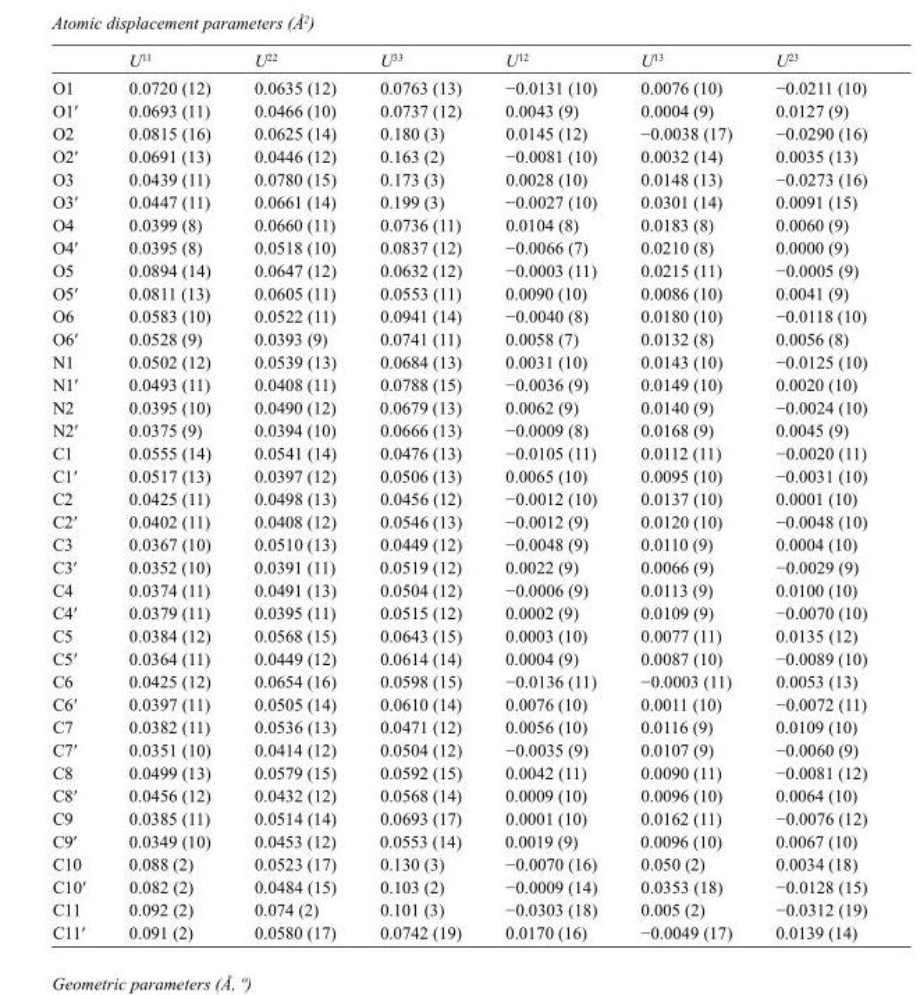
<table><thead><tr><td></td><td>U<sup>11</sup></td><td>U<sup>22</sup></td><td>U<sup>33</sup></td><td>U<sup>12</sup></td><td>U<sup>13</sup></td><td>U<sup>23</sup></td></tr></thead><tbody><tr><td>O1</td><td>0.0720 (12)</td><td>0.0635 (12)</td><td>0.0763 (13)</td><td>−0.0131 (10)</td><td>0.0076 (10)</td><td>−0.0211 (10)</td></tr><tr><td>O1′</td><td>0.0693 (11)</td><td>0.0466 (10)</td><td>0.0737 (12)</td><td>0.0043 (9)</td><td>0.0004 (9)</td><td>0.0127 (9)</td></tr><tr><td>O2</td><td>0.0815 (16)</td><td>0.0625 (14)</td><td>0.180 (3)</td><td>0.0145 (12)</td><td>−0.0038 (17)</td><td>−0.0290 (16)</td></tr><tr><td>O2′</td><td>0.0691 (13)</td><td>0.0446 (12)</td><td>0.163 (2)</td><td>−0.0081 (10)</td><td>0.0032 (14)</td><td>0.0035 (13)</td></tr><tr><td>O3</td><td>0.0439 (11)</td><td>0.0780 (15)</td><td>0.173 (3)</td><td>0.0028 (10)</td><td>0.0148 (13)</td><td>−0.0273 (16)</td></tr><tr><td>O3′</td><td>0.0447 (11)</td><td>0.0661 (14)</td><td>0.199 (3)</td><td>−0.0027 (10)</td><td>0.0301 (14)</td><td>0.0091 (15)</td></tr><tr><td>O4</td><td>0.0399 (8)</td><td>0.0660 (11)</td><td>0.0736 (11)</td><td>0.0104 (8)</td><td>0.0183 (8)</td><td>0.0060 (9)</td></tr><tr><td>O4′</td><td>0.0395 (8)</td><td>0.0518 (10)</td><td>0.0837 (12)</td><td>−0.0066 (7)</td><td>0.0210 (8)</td><td>0.0000 (9)</td></tr><tr><td>O5</td><td>0.0894 (14)</td><td>0.0647 (12)</td><td>0.0632 (12)</td><td>−0.0003 (11)</td><td>0.0215 (11)</td><td>−0.0005 (9)</td></tr><tr><td>O5′</td><td>0.0811 (13)</td><td>0.0605 (11)</td><td>0.0553 (11)</td><td>0.0090 (10)</td><td>0.0086 (10)</td><td>0.0041 (9)</td></tr><tr><td>O6</td><td>0.0583 (10)</td><td>0.0522 (11)</td><td>0.0941 (14)</td><td>−0.0040 (8)</td><td>0.0180 (10)</td><td>−0.0118 (10)</td></tr><tr><td>O6′</td><td>0.0528 (9)</td><td>0.0393 (9)</td><td>0.0741 (11)</td><td>0.0058 (7)</td><td>0.0132 (8)</td><td>0.0056 (8)</td></tr><tr><td>N1</td><td>0.0502 (12)</td><td>0.0539 (13)</td><td>0.0684 (13)</td><td>0.0031 (10)</td><td>0.0143 (10)</td><td>−0.0125 (10)</td></tr><tr><td>N1′</td><td>0.0493 (11)</td><td>0.0408 (11)</td><td>0.0788 (15)</td><td>−0.0036 (9)</td><td>0.0149 (10)</td><td>0.0020 (10)</td></tr><tr><td>N2</td><td>0.0395 (10)</td><td>0.0490 (12)</td><td>0.0679 (13)</td><td>0.0062 (9)</td><td>0.0140 (9)</td><td>−0.0024 (10)</td></tr><tr><td>N2′</td><td>0.0375 (9)</td><td>0.0394 (10)</td><td>0.0666 (13)</td><td>−0.0009 (8)</td><td>0.0168 (9)</td><td>0.0045 (9)</td></tr><tr><td>C1</td><td>0.0555 (14)</td><td>0.0541 (14)</td><td>0.0476 (13)</td><td>−0.0105 (11)</td><td>0.0112 (11)</td><td>−0.0020 (11)</td></tr><tr><td>C1′</td><td>0.0517 (13)</td><td>0.0397 (12)</td><td>0.0506 (13)</td><td>0.0065 (10)</td><td>0.0095 (10)</td><td>−0.0031 (10)</td></tr><tr><td>C2</td><td>0.0425 (11)</td><td>0.0498 (13)</td><td>0.0456 (12)</td><td>−0.0012 (10)</td><td>0.0137 (10)</td><td>0.0001 (10)</td></tr><tr><td>C2′</td><td>0.0402 (11)</td><td>0.0408 (12)</td><td>0.0546 (13)</td><td>−0.0012 (9)</td><td>0.0120 (10)</td><td>−0.0048 (10)</td></tr><tr><td>C3</td><td>0.0367 (10)</td><td>0.0510 (13)</td><td>0.0449 (12)</td><td>−0.0048 (9)</td><td>0.0110 (9)</td><td>0.0004 (10)</td></tr><tr><td>C3′</td><td>0.0352 (10)</td><td>0.0391 (11)</td><td>0.0519 (12)</td><td>0.0022 (9)</td><td>0.0066 (9)</td><td>−0.0029 (9)</td></tr><tr><td>C4</td><td>0.0374 (11)</td><td>0.0491 (13)</td><td>0.0504 (12)</td><td>−0.0006 (9)</td><td>0.0113 (9)</td><td>0.0100 (10)</td></tr><tr><td>C4′</td><td>0.0379 (11)</td><td>0.0395 (11)</td><td>0.0515 (12)</td><td>0.0002 (9)</td><td>0.0109 (9)</td><td>−0.0070 (10)</td></tr><tr><td>C5</td><td>0.0384 (12)</td><td>0.0568 (15)</td><td>0.0643 (15)</td><td>0.0003 (10)</td><td>0.0077 (11)</td><td>0.0135 (12)</td></tr><tr><td>C5′</td><td>0.0364 (11)</td><td>0.0449 (12)</td><td>0.0614 (14)</td><td>0.0004 (9)</td><td>0.0087 (10)</td><td>−0.0089 (10)</td></tr><tr><td>C6</td><td>0.0425 (12)</td><td>0.0654 (16)</td><td>0.0598 (15)</td><td>−0.0136 (11)</td><td>−0.0003 (11)</td><td>0.0053 (13)</td></tr><tr><td>C6′</td><td>0.0397 (11)</td><td>0.0505 (14)</td><td>0.0610 (14)</td><td>0.0076 (10)</td><td>0.0011 (10)</td><td>−0.0072 (11)</td></tr><tr><td>C7</td><td>0.0382 (11)</td><td>0.0536 (13)</td><td>0.0471 (12)</td><td>0.0056 (10)</td><td>0.0116 (9)</td><td>0.0109 (10)</td></tr><tr><td>C7′</td><td>0.0351 (10)</td><td>0.0414 (12)</td><td>0.0504 (12)</td><td>−0.0035 (9)</td><td>0.0107 (9)</td><td>−0.0060 (9)</td></tr><tr><td>C8</td><td>0.0499 (13)</td><td>0.0579 (15)</td><td>0.0592 (15)</td><td>0.0042 (11)</td><td>0.0090 (11)</td><td>−0.0081 (12)</td></tr><tr><td>C8′</td><td>0.0456 (12)</td><td>0.0432 (12)</td><td>0.0568 (14)</td><td>0.0009 (10)</td><td>0.0096 (10)</td><td>0.0064 (10)</td></tr><tr><td>C9</td><td>0.0385 (11)</td><td>0.0514 (14)</td><td>0.0693 (17)</td><td>0.0001 (10)</td><td>0.0162 (11)</td><td>−0.0076 (12)</td></tr><tr><td>C9′</td><td>0.0349 (10)</td><td>0.0453 (12)</td><td>0.0553 (14)</td><td>0.0019 (9)</td><td>0.0096 (10)</td><td>0.0067 (10)</td></tr><tr><td>C10</td><td>0.088 (2)</td><td>0.0523 (17)</td><td>0.130 (3)</td><td>−0.0070 (16)</td><td>0.050 (2)</td><td>0.0034 (18)</td></tr><tr><td>C10′</td><td>0.082 (2)</td><td>0.0484 (15)</td><td>0.103 (2)</td><td>−0.0009 (14)</td><td>0.0353 (18)</td><td>−0.0128 (15)</td></tr><tr><td>C11</td><td>0.092 (2)</td><td>0.074 (2)</td><td>0.101 (3)</td><td>−0.0303 (18)</td><td>0.005 (2)</td><td>−0.0312 (19)</td></tr><tr><td>C11′</td><td>0.091 (2)</td><td>0.0580 (17)</td><td>0.0742 (19)</td><td>0.0170 (16)</td><td>−0.0049 (17)</td><td>0.0139 (14)</td></tr></tbody></table>